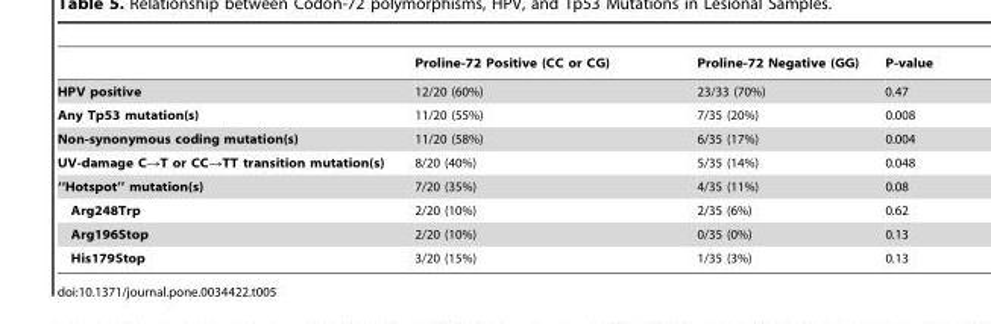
<table><thead><tr><td></td><td>Proline-72 Positive (CC or CG)</td><td>Proline-72 Negative (GG)</td><td>P-value</td></tr></thead><tbody><tr><td>HPV positive</td><td>12/20 (60%)</td><td>23/33 (70%)</td><td>0.47</td></tr><tr><td>Any Tp53 mutation(s)</td><td>11/20 (55%)</td><td>7/35 (20%)</td><td>0.008</td></tr><tr><td>Non-synonymous coding mutation(s)</td><td>11/20 (58%)</td><td>6/35 (17%)</td><td>0.004</td></tr><tr><td>UV-damage C→T or CC→TT transition mutation(s)</td><td>8/20 (40%)</td><td>5/35 (14%)</td><td>0.048</td></tr><tr><td>‘‘Hotspot’’ mutation(s)</td><td>7/20 (35%)</td><td>4/35 (11%)</td><td>0.08</td></tr><tr><td>Arg248Trp</td><td>2/20 (10%)</td><td>2/35 (6%)</td><td>0.62</td></tr><tr><td>Arg196Stop</td><td>2/20 (10%)</td><td>0/35 (0%)</td><td>0.13</td></tr><tr><td>His179Stop</td><td>3/20 (15%)</td><td>1/35 (3%)</td><td>0.13</td></tr></tbody></table>